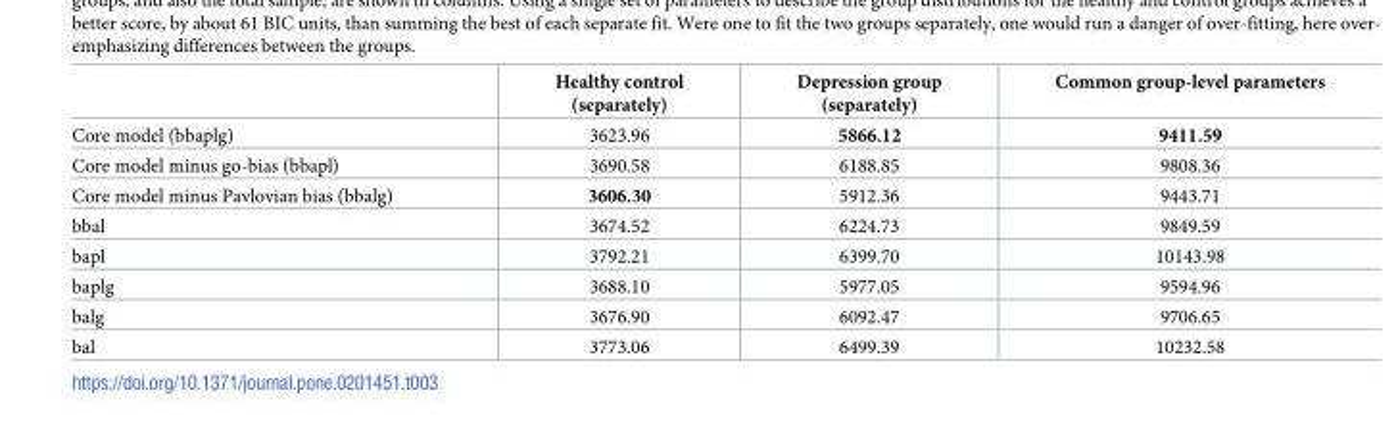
<table><thead><tr><td></td><td>Healthy control (separately)</td><td>Depression group (separately)</td><td>Common group-level parameters</td></tr></thead><tbody><tr><td>Core model (bbaplg)</td><td>3623.96</td><td>5866.12</td><td>9411.59</td></tr><tr><td>Core model minus go-bias (bbapl)</td><td>3690.58</td><td>6188.85</td><td>9808.36</td></tr><tr><td>Core model minus Pavlovian bias (bbalg)</td><td>3606.30</td><td>5912.36</td><td>9443.71</td></tr><tr><td>bbal</td><td>3674.52</td><td>6224.73</td><td>9849.59</td></tr><tr><td>bapl</td><td>3792.21</td><td>6399.70</td><td>10143.98</td></tr><tr><td>baplg</td><td>3688.10</td><td>5977.05</td><td>9594.96</td></tr><tr><td>balg</td><td>3676.90</td><td>6092.47</td><td>9706.65</td></tr><tr><td>bal</td><td>3773.06</td><td>6499.39</td><td>10232.58</td></tr></tbody></table>